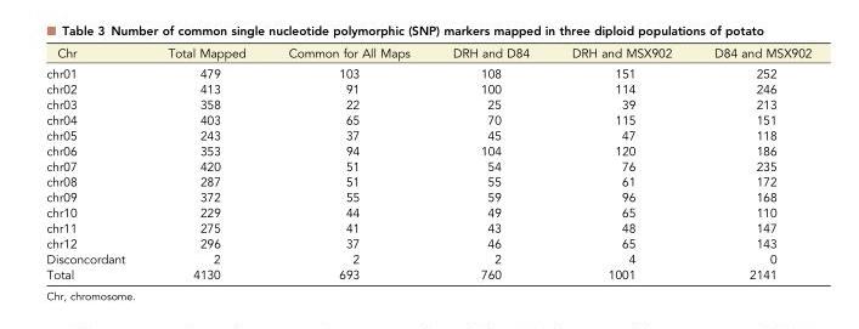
<table><thead><tr><td>Chr</td><td>Total Mapped</td><td>Common for All Maps</td><td>DRH and D84</td><td>DRH and MSX902</td><td>D84 and MSX902</td></tr></thead><tbody><tr><td>chr01</td><td>479</td><td>103</td><td>108</td><td>151</td><td>252</td></tr><tr><td>chr02</td><td>413</td><td>91</td><td>100</td><td>114</td><td>246</td></tr><tr><td>chr03</td><td>358</td><td>22</td><td>25</td><td>39</td><td>213</td></tr><tr><td>chr04</td><td>403</td><td>65</td><td>70</td><td>115</td><td>151</td></tr><tr><td>chr05</td><td>243</td><td>37</td><td>45</td><td>47</td><td>118</td></tr><tr><td>chr06</td><td>353</td><td>94</td><td>104</td><td>120</td><td>186</td></tr><tr><td>chr07</td><td>420</td><td>51</td><td>54</td><td>76</td><td>235</td></tr><tr><td>chr08</td><td>287</td><td>51</td><td>55</td><td>61</td><td>172</td></tr><tr><td>chr09</td><td>372</td><td>55</td><td>59</td><td>96</td><td>168</td></tr><tr><td>chr10</td><td>229</td><td>44</td><td>49</td><td>65</td><td>110</td></tr><tr><td>chr11</td><td>275</td><td>41</td><td>43</td><td>48</td><td>147</td></tr><tr><td>chr12</td><td>296</td><td>37</td><td>46</td><td>65</td><td>143</td></tr><tr><td>Disconcordant</td><td>2</td><td>2</td><td>2</td><td>4</td><td>0</td></tr><tr><td>Total</td><td>4130</td><td>693</td><td>760</td><td>1001</td><td>2141</td></tr></tbody></table>